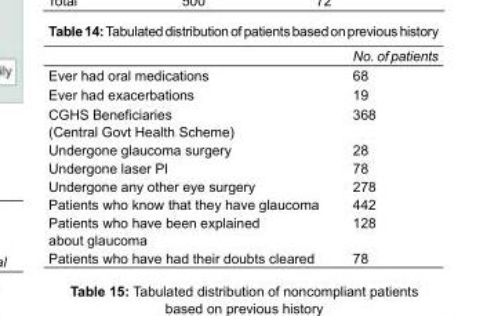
<table><thead><tr><td></td><td>No. of patients</td></tr></thead><tbody><tr><td>Ever had oral medications</td><td>68</td></tr><tr><td>Ever had exacerbations</td><td>19</td></tr><tr><td>CGHS Beneficiaries</td><td>368</td></tr><tr><td colspan="2">(Central Govt Health Scheme)</td></tr><tr><td>Undergone glaucoma surgery</td><td>28</td></tr><tr><td>Undergone laser PI</td><td>78</td></tr><tr><td>Undergone any other eye surgery</td><td>278</td></tr><tr><td>Patients who know that they have glaucoma</td><td>442</td></tr><tr><td>Patients who have been explained</td><td>128</td></tr><tr><td colspan="2">about glaucoma</td></tr><tr><td>Patients who have had their doubts cleared</td><td>78</td></tr></tbody></table>